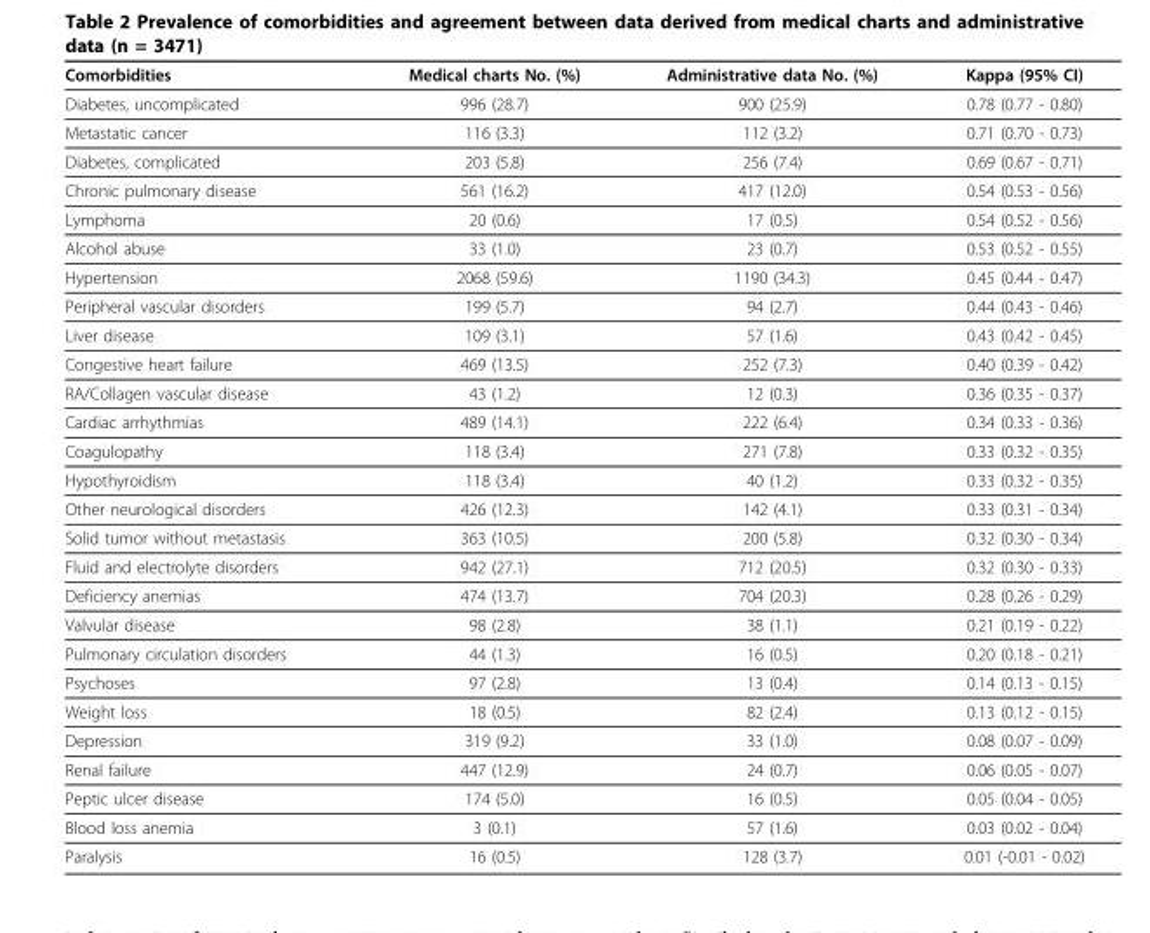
<table><thead><tr><td>Comorbidities</td><td>Medical charts No. (%)</td><td>Administrative data No. (%)</td><td>Kappa (95% CI)</td></tr></thead><tbody><tr><td>Diabetes, uncomplicated</td><td>996 (28.7)</td><td>900 (25.9)</td><td>0.78 (0.77 - 0.80)</td></tr><tr><td>Metastatic cancer</td><td>116 (3.3)</td><td>112 (3.2)</td><td>0.71 (0.70 - 0.73)</td></tr><tr><td>Diabetes, complicated</td><td>203 (5.8)</td><td>256 (7.4)</td><td>0.69 (0.67 - 0.71)</td></tr><tr><td>Chronic pulmonary disease</td><td>561 (16.2)</td><td>417 (12.0)</td><td>0.54 (0.53 - 0.56)</td></tr><tr><td>Lymphoma</td><td>20 (0.6)</td><td>17 (0.5)</td><td>0.54 (0.52 - 0.56)</td></tr><tr><td>Alcohol abuse</td><td>33 (1.0)</td><td>23 (0.7)</td><td>0.53 (0.52 - 0.55)</td></tr><tr><td>Hypertension</td><td>2068 (59.6)</td><td>1190 (34.3)</td><td>0.45 (0.44 - 0.47)</td></tr><tr><td>Peripheral vascular disorders</td><td>199 (5.7)</td><td>94 (2.7)</td><td>0.44 (0.43 - 0.46)</td></tr><tr><td>Liver disease</td><td>109 (3.1)</td><td>57 (1.6)</td><td>0.43 (0.42 - 0.45)</td></tr><tr><td>Congestive heart failure</td><td>469 (13.5)</td><td>252 (7.3)</td><td>0.40 (0.39 - 0.42)</td></tr><tr><td>RA/Collagen vascular disease</td><td>43 (1.2)</td><td>12 (0.3)</td><td>0.36 (0.35 - 0.37)</td></tr><tr><td>Cardiac arrhythmias</td><td>489 (14.1)</td><td>222 (6.4)</td><td>0.34 (0.33 - 0.36)</td></tr><tr><td>Coagulopathy</td><td>118 (3.4)</td><td>271 (7.8)</td><td>0.33 (0.32 - 0.35)</td></tr><tr><td>Hypothyroidism</td><td>118 (3.4)</td><td>40 (1.2)</td><td>0.33 (0.32 - 0.35)</td></tr><tr><td>Other neurological disorders</td><td>426 (12.3)</td><td>142 (4.1)</td><td>0.33 (0.31 - 0.34)</td></tr><tr><td>Solid tumor without metastasis</td><td>363 (10.5)</td><td>200 (5.8)</td><td>0.32 (0.30 - 0.34)</td></tr><tr><td>Fluid and electrolyte disorders</td><td>942 (27.1)</td><td>712 (20.5)</td><td>0.32 (0.30 - 0.33)</td></tr><tr><td>Deficiency anemias</td><td>474 (13.7)</td><td>704 (20.3)</td><td>0.28 (0.26 - 0.29)</td></tr><tr><td>Valvular disease</td><td>98 (2.8)</td><td>38 (1.1)</td><td>0.21 (0.19 - 0.22)</td></tr><tr><td>Pulmonary circulation disorders</td><td>44 (1.3)</td><td>16 (0.5)</td><td>0.20 (0.18 - 0.21)</td></tr><tr><td>Psychoses</td><td>97 (2.8)</td><td>13 (0.4)</td><td>0.14 (0.13 - 0.15)</td></tr><tr><td>Weight loss</td><td>18 (0.5)</td><td>82 (2.4)</td><td>0.13 (0.12 - 0.15)</td></tr><tr><td>Depression</td><td>319 (9.2)</td><td>33 (1.0)</td><td>0.08 (0.07 - 0.09)</td></tr><tr><td>Renal failure</td><td>447 (12.9)</td><td>24 (0.7)</td><td>0.06 (0.05 - 0.07)</td></tr><tr><td>Peptic ulcer disease</td><td>174 (5.0)</td><td>16 (0.5)</td><td>0.05 (0.04 - 0.05)</td></tr><tr><td>Blood loss anemia</td><td>3 (0.1)</td><td>57 (1.6)</td><td>0.03 (0.02 - 0.04)</td></tr><tr><td>Paralysis</td><td>16 (0.5)</td><td>128 (3.7)</td><td>0.01 (-0.01 - 0.02)</td></tr></tbody></table>